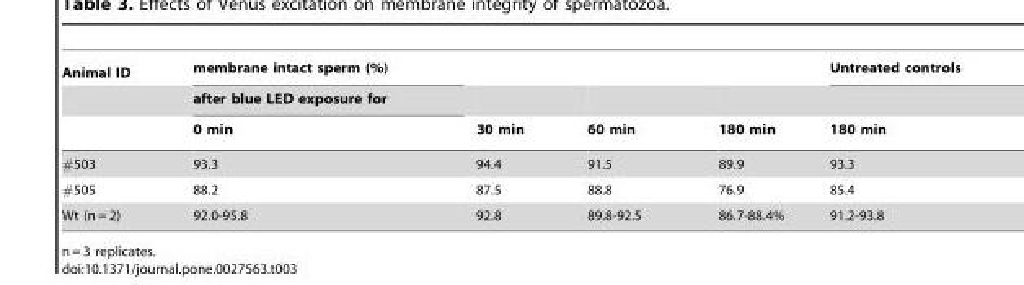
<table><thead><tr><td rowspan="3">Animal ID</td><td rowspan="3">membrane intact sperm (%) after blue LED exposure for 0 min</td><td rowspan="3">30 min</td><td rowspan="3">60 min</td><td rowspan="3">180 min</td><td rowspan="3">Untreated controls 180 min</td></tr><tr></tr><tr></tr></thead><tbody><tr><td>#503</td><td>93.3</td><td>94.4</td><td>91.5</td><td>89.9</td><td>93.3</td></tr><tr><td>#505</td><td>88.2</td><td>87.5</td><td>88.8</td><td>76.9</td><td>85.4</td></tr><tr><td>Wt (n = 2)</td><td>92.0-95.8</td><td>92.8</td><td>89.8-92.5</td><td>86.7-88.4%</td><td>91.2-93.8</td></tr></tbody></table>